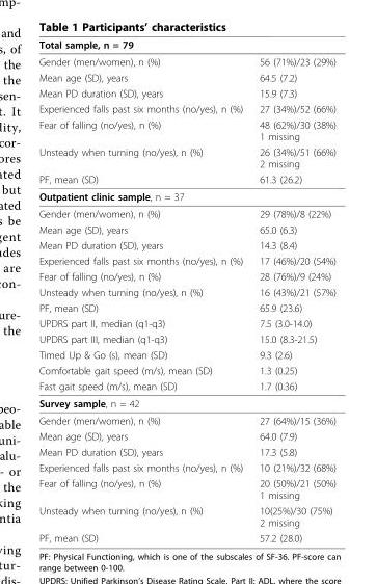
<table><thead><tr><td>Total sample, n = 79</td><td></td></tr></thead><tbody><tr><td>Gender (men/women), n (%)</td><td>56 (71%)/23 (29%)</td></tr><tr><td>Mean age (SD), years</td><td>64.5 (7.2)</td></tr><tr><td>Mean PD duration (SD), years</td><td>15.9 (7.3)</td></tr><tr><td>Experienced falls past six months (no/yes), n (%)</td><td>27 (34%)/52 (66%)</td></tr><tr><td>Fear of falling (no/yes), n (%)</td><td>48 (62%)/30 (38%) 1 missing</td></tr><tr><td>Unsteady when turning (no/yes), n (%)</td><td>26 (34%)/51 (66%) 2 missing</td></tr><tr><td>PF, mean (SD)</td><td>61.3 (26.2)</td></tr><tr><td colspan="2">Outpatient clinic sample, n = 37</td></tr><tr><td>Gender (men/women), n (%)</td><td>29 (78%)/8 (22%)</td></tr><tr><td>Mean age (SD), years</td><td>65.0 (6.3)</td></tr><tr><td>Mean PD duration (SD), years</td><td>14.3 (8.4)</td></tr><tr><td>Experienced falls past six months (no/yes), n (%)</td><td>17 (46%)/20 (54%)</td></tr><tr><td>Fear of falling (no/yes), n (%)</td><td>28 (76%)/9 (24%)</td></tr><tr><td>Unsteady when turning (no/yes), n (%)</td><td>16 (43%)/21 (57%)</td></tr><tr><td>PF, mean (SD)</td><td>65.9 (23.6)</td></tr><tr><td>UPDRS part II, median (q1-q3)</td><td>7.5 (3.0-14.0)</td></tr><tr><td>UPDRS part III, median (q1-q3)</td><td>15.0 (8.3-21.5)</td></tr><tr><td>Timed Up &amp; Go (s), mean (SD)</td><td>9.3 (2.6)</td></tr><tr><td>Comfortable gait speed (m/s), mean (SD)</td><td>1.3 (0.25)</td></tr><tr><td>Fast gait speed (m/s), mean (SD)</td><td>1.7 (0.36)</td></tr><tr><td colspan="2">Survey sample, n = 42</td></tr><tr><td>Gender (men/women), n (%)</td><td>27 (64%)/15 (36%)</td></tr><tr><td>Mean age (SD), years</td><td>64.0 (7.9)</td></tr><tr><td>Mean PD duration (SD), years</td><td>17.3 (5.8)</td></tr><tr><td>Experienced falls past six months (no/yes), n (%)</td><td>10 (21%)/32 (68%)</td></tr><tr><td>Fear of falling (no/yes), n (%)</td><td>20 (50%)/21 (50%) 1 missing</td></tr><tr><td>Unsteady when turning (no/yes), n (%)</td><td>10(25%)/30 (75%) 2 missing</td></tr><tr><td>PF, mean (SD)</td><td>57.2 (28.0)</td></tr></tbody></table>